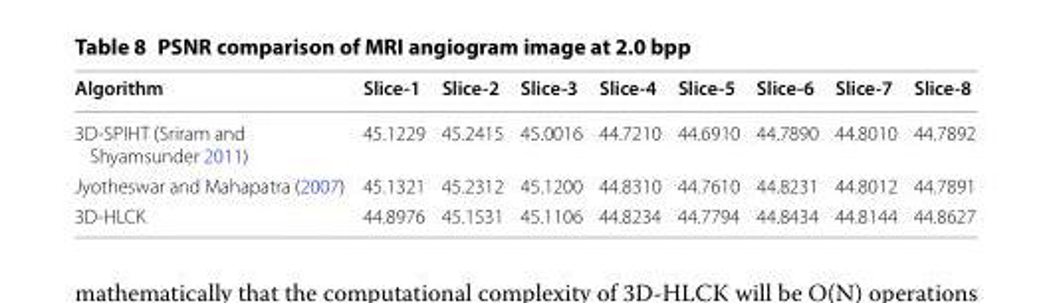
<table><thead><tr><td>Algorithm</td><td>Slice‑1</td><td>Slice‑2</td><td>Slice‑3</td><td>Slice‑4</td><td>Slice‑5</td><td>Slice‑6</td><td>Slice‑7</td><td>Slice‑8</td></tr></thead><tbody><tr><td>3D-SPIHT (Sriram and Shyamsunder 2011)</td><td>45.1229</td><td>45.2415</td><td>45.0016</td><td>44.7210</td><td>44.6910</td><td>44.7890</td><td>44.8010</td><td>44.7892</td></tr><tr><td>Jyotheswar and Mahapatra (2007)</td><td>45.1321</td><td>45.2312</td><td>45.1200</td><td>44.8310</td><td>44.7610</td><td>44.8231</td><td>44.8012</td><td>44.7891</td></tr><tr><td>3D-HLCK</td><td>44.8976</td><td>45.1531</td><td>45.1106</td><td>44.8234</td><td>44.7794</td><td>44.8434</td><td>44.8144</td><td>44.8627</td></tr></tbody></table>